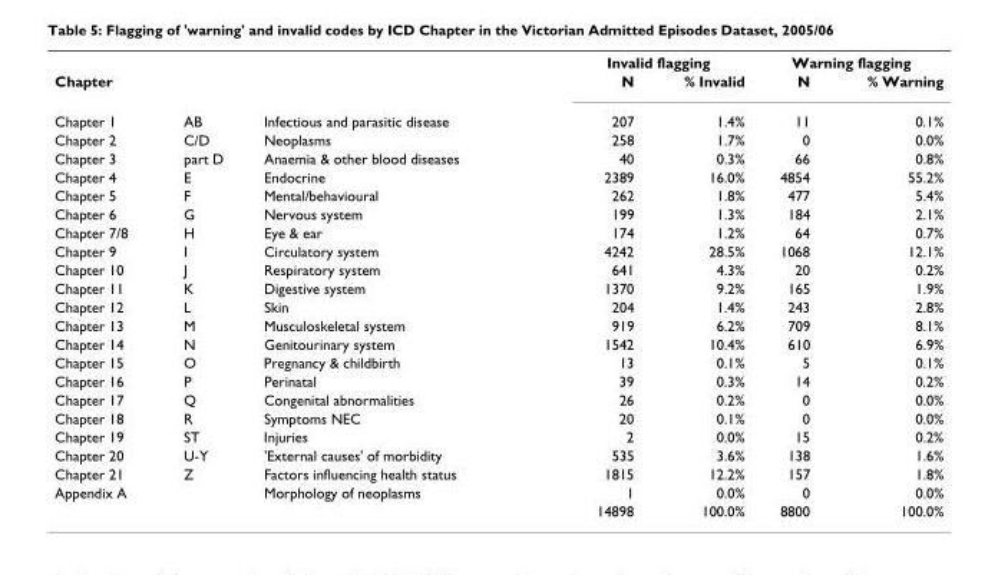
<table><thead><tr><td rowspan="2">Chapter</td><td rowspan="2"></td><td rowspan="2"></td><td colspan="2">Invalid flagging</td><td colspan="2">Warning flagging</td></tr><tr><td>N</td><td>% Invalid</td><td>N</td><td>% Warning</td></tr></thead><tbody><tr><td>Chapter 1</td><td>AB</td><td>Infectious and parasitic disease</td><td>207</td><td>1.4%</td><td>11</td><td>0.1%</td></tr><tr><td>Chapter 2</td><td>C/D</td><td>Neoplasms</td><td>258</td><td>1.7%</td><td>0</td><td>0.0%</td></tr><tr><td>Chapter 3</td><td>part D</td><td>Anaemia &amp; other blood diseases</td><td>40</td><td>0.3%</td><td>66</td><td>0.8%</td></tr><tr><td>Chapter 4</td><td>E</td><td>Endocrine</td><td>2389</td><td>16.0%</td><td>4854</td><td>55.2%</td></tr><tr><td>Chapter 5</td><td>F</td><td>Mental/behavioural</td><td>262</td><td>1.8%</td><td>477</td><td>5.4%</td></tr><tr><td>Chapter 6</td><td>G</td><td>Nervous system</td><td>199</td><td>1.3%</td><td>184</td><td>2.1%</td></tr><tr><td>Chapter 7/8</td><td>H</td><td>Eye &amp; ear</td><td>174</td><td>1.2%</td><td>64</td><td>0.7%</td></tr><tr><td>Chapter 9</td><td>I</td><td>Circulatory system</td><td>4242</td><td>28.5%</td><td>1068</td><td>12.1%</td></tr><tr><td>Chapter 10</td><td>J</td><td>Respiratory system</td><td>641</td><td>4.3%</td><td>20</td><td>0.2%</td></tr><tr><td>Chapter 11</td><td>K</td><td>Digestive system</td><td>1370</td><td>9.2%</td><td>165</td><td>1.9%</td></tr><tr><td>Chapter 12</td><td>L</td><td>Skin</td><td>204</td><td>1.4%</td><td>243</td><td>2.8%</td></tr><tr><td>Chapter 13</td><td>M</td><td>Musculoskeletal system</td><td>919</td><td>6.2%</td><td>709</td><td>8.1%</td></tr><tr><td>Chapter 14</td><td>N</td><td>Genitourinary system</td><td>1542</td><td>10.4%</td><td>610</td><td>6.9%</td></tr><tr><td>Chapter 15</td><td>O</td><td>Pregnancy &amp; childbirth</td><td>13</td><td>0.1%</td><td>5</td><td>0.1%</td></tr><tr><td>Chapter 16</td><td>P</td><td>Perinatal</td><td>39</td><td>0.3%</td><td>14</td><td>0.2%</td></tr><tr><td>Chapter 17</td><td>Q</td><td>Congenital abnormalities</td><td>26</td><td>0.2%</td><td>0</td><td>0.0%</td></tr><tr><td>Chapter 18</td><td>R</td><td>Symptoms NEC</td><td>20</td><td>0.1%</td><td>0</td><td>0.0%</td></tr><tr><td>Chapter 19</td><td>ST</td><td>Injuries</td><td>2</td><td>0.0%</td><td>15</td><td>0.2%</td></tr><tr><td>Chapter 20</td><td>U-Y</td><td>&#x27;External causes&#x27; of morbidity</td><td>535</td><td>3.6%</td><td>138</td><td>1.6%</td></tr><tr><td>Chapter 21</td><td>Z</td><td>Factors influencing health status</td><td>1815</td><td>12.2%</td><td>157</td><td>1.8%</td></tr><tr><td rowspan="2">Appendix A</td><td></td><td>Morphology of neoplasms</td><td>1</td><td>0.0%</td><td>0</td><td>0.0%</td></tr><tr><td></td><td></td><td>14898</td><td>100.0%</td><td>8800</td><td>100.0%</td></tr></tbody></table>